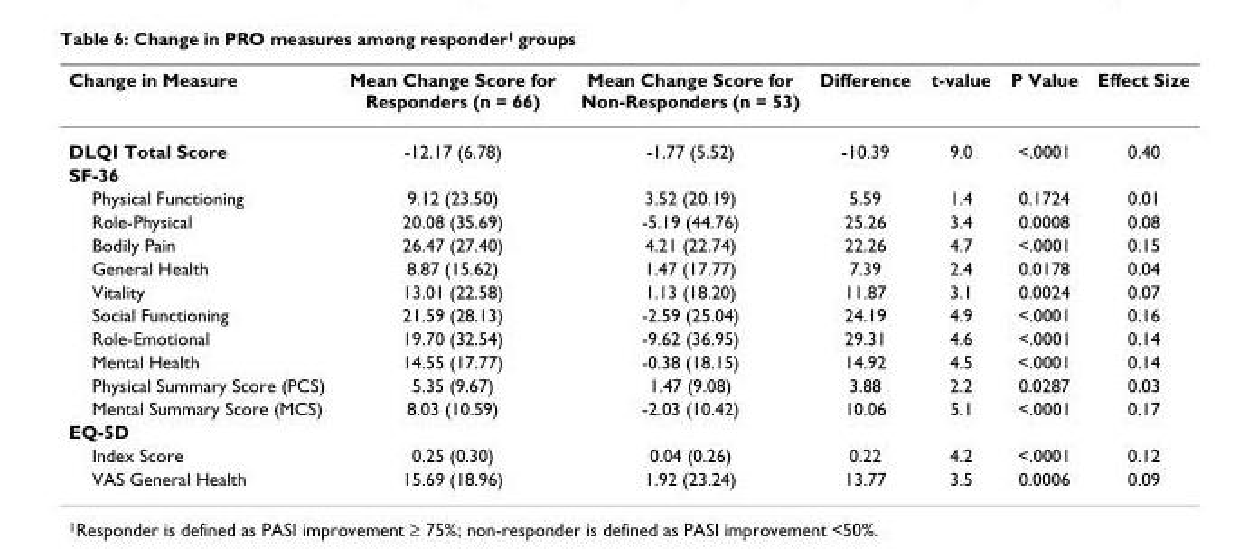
<table><thead><tr><td>Change in Measure</td><td>Mean Change Score for Responders (n = 66)</td><td>Mean Change Score for Non-Responders (n = 53)</td><td>Difference</td><td>t-value</td><td>P Value</td><td>Effect Size</td></tr></thead><tbody><tr><td>DLQI Total Score</td><td>-12.17 (6.78)</td><td>-1.77 (5.52)</td><td>-10.39</td><td>9.0</td><td>&lt;.0001</td><td>0.40</td></tr><tr><td colspan="7">SF-36</td></tr><tr><td>Physical Functioning</td><td>9.12 (23.50)</td><td>3.52 (20.19)</td><td>5.59</td><td>1.4</td><td>0.1724</td><td>0.01</td></tr><tr><td>Role-Physical</td><td>20.08 (35.69)</td><td>-5.19 (44.76)</td><td>25.26</td><td>3.4</td><td>0.0008</td><td>0.08</td></tr><tr><td>Bodily Pain</td><td>26.47 (27.40)</td><td>4.21 (22.74)</td><td>22.26</td><td>4.7</td><td>&lt;.0001</td><td>0.15</td></tr><tr><td>General Health</td><td>8.87 (15.62)</td><td>1.47 (17.77)</td><td>7.39</td><td>2.4</td><td>0.0178</td><td>0.04</td></tr><tr><td>Vitality</td><td>13.01 (22.58)</td><td>1.13 (18.20)</td><td>11.87</td><td>3.1</td><td>0.0024</td><td>0.07</td></tr><tr><td>Social Functioning</td><td>21.59 (28.13)</td><td>-2.59 (25.04)</td><td>24.19</td><td>4.9</td><td>&lt;.0001</td><td>0.16</td></tr><tr><td>Role-Emotional</td><td>19.70 (32.54)</td><td>-9.62 (36.95)</td><td>29.31</td><td>4.6</td><td>&lt;.0001</td><td>0.14</td></tr><tr><td>Mental Health</td><td>14.55 (17.77)</td><td>-0.38 (18.15)</td><td>14.92</td><td>4.5</td><td>&lt;.0001</td><td>0.14</td></tr><tr><td>Physical Summary Score (PCS)</td><td>5.35 (9.67)</td><td>1.47 (9.08)</td><td>3.88</td><td>2.2</td><td>0.0287</td><td>0.03</td></tr><tr><td>Mental Summary Score (MCS)</td><td>8.03 (10.59)</td><td>-2.03 (10.42)</td><td>10.06</td><td>5.1</td><td>&lt;.0001</td><td>0.17</td></tr><tr><td colspan="7">EQ-5D</td></tr><tr><td>Index Score</td><td>0.25 (0.30)</td><td>0.04 (0.26)</td><td>0.22</td><td>4.2</td><td>&lt;.0001</td><td>0.12</td></tr><tr><td>VAS General Health</td><td>15.69 (18.96)</td><td>1.92 (23.24)</td><td>13.77</td><td>3.5</td><td>0.0006</td><td>0.09</td></tr></tbody></table>